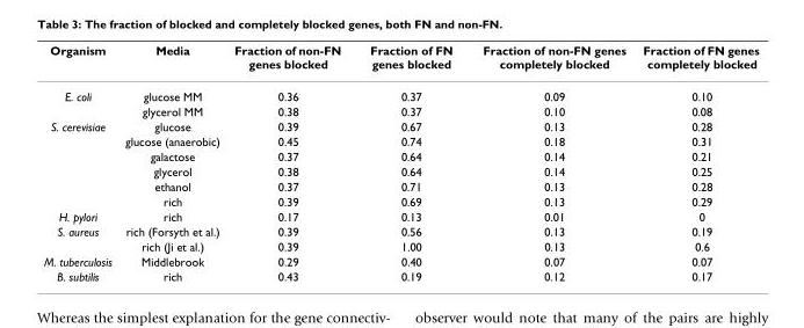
<table><thead><tr><td>Organism</td><td>Media</td><td>Fraction of non-FN genes blocked</td><td>Fraction of FN genes blocked</td><td>Fraction of non-FN genes completely blocked</td><td>Fraction of FN genes completely blocked</td></tr></thead><tbody><tr><td rowspan="2">E. coli</td><td>glucose MM</td><td>0.36</td><td>0.37</td><td>0.09</td><td>0.10</td></tr><tr><td>glycerol MM</td><td>0.38</td><td>0.37</td><td>0.10</td><td>0.08</td></tr><tr><td rowspan="6">S. cerevisiae</td><td>glucose</td><td>0.39</td><td>0.67</td><td>0.13</td><td>0.28</td></tr><tr><td>glucose (anaerobic)</td><td>0.45</td><td>0.74</td><td>0.18</td><td>0.31</td></tr><tr><td>galactose</td><td>0.37</td><td>0.64</td><td>0.14</td><td>0.21</td></tr><tr><td>glycerol</td><td>0.38</td><td>0.64</td><td>0.14</td><td>0.25</td></tr><tr><td>ethanol</td><td>0.37</td><td>0.71</td><td>0.13</td><td>0.28</td></tr><tr><td>rich</td><td>0.39</td><td>0.69</td><td>0.13</td><td>0.29</td></tr><tr><td>H. pylori</td><td>rich</td><td>0.17</td><td>0.13</td><td>0.01</td><td>0</td></tr><tr><td rowspan="2">S. aureus</td><td>rich (Forsyth et al.)</td><td>0.39</td><td>0.56</td><td>0.13</td><td>0.19</td></tr><tr><td>rich (Ji et al.)</td><td>0.39</td><td>1.00</td><td>0.13</td><td>0.6</td></tr><tr><td>M. tuberculosis</td><td>Middlebrook</td><td>0.29</td><td>0.40</td><td>0.07</td><td>0.07</td></tr><tr><td>B. subtilis</td><td>rich</td><td>0.43</td><td>0.19</td><td>0.12</td><td>0.17</td></tr></tbody></table>